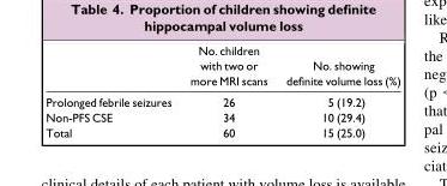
<table><thead><tr><td></td><td>No. children with two or more MRI scans</td><td>No. showing definite volume loss (%)</td></tr></thead><tbody><tr><td>Prolonged febrile seizures</td><td>26</td><td>5 (19.2)</td></tr><tr><td>Non-PFS CSE</td><td>34</td><td>10 (29.4)</td></tr><tr><td>Total</td><td>60</td><td>15 (25.0)</td></tr></tbody></table>